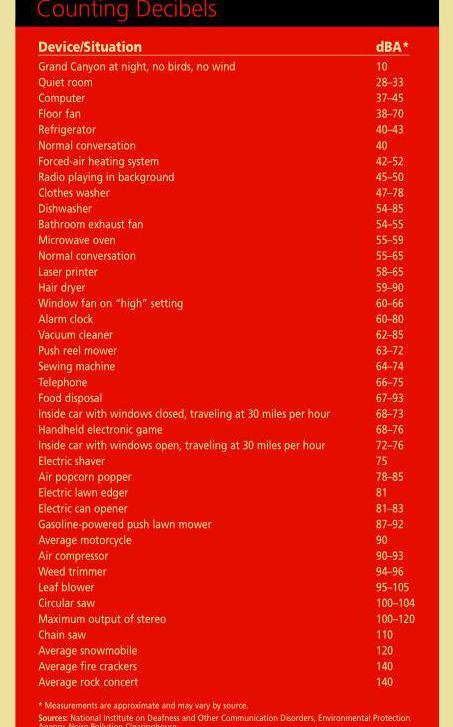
<table><thead><tr><td>Device/Situation</td><td>dBA*</td></tr></thead><tbody><tr><td>Grand Canyon at night, no birds, no wind</td><td>10</td></tr><tr><td>Quiet room</td><td>28–33</td></tr><tr><td>Computer</td><td>37–45</td></tr><tr><td>Floor fan</td><td>38–70</td></tr><tr><td>Refrigerator</td><td>40–43</td></tr><tr><td>Normal conversation</td><td>40</td></tr><tr><td>Forced-air heating system</td><td>42–52</td></tr><tr><td>Radio playing in background</td><td>45–50</td></tr><tr><td>Clothes washer</td><td>47–78</td></tr><tr><td>Dishwasher</td><td>54–85</td></tr><tr><td>Bathroom exhaust fan</td><td>54–55</td></tr><tr><td>Microwave oven</td><td>55–59</td></tr><tr><td>Normal conversation</td><td>55–65</td></tr><tr><td>Laser printer</td><td>58–65</td></tr><tr><td>Hair dryer</td><td>59–90</td></tr><tr><td>Window fan on “high” setting</td><td>60–66</td></tr><tr><td>Alarm clock</td><td>60–80</td></tr><tr><td>Vacuum cleaner</td><td>62–85</td></tr><tr><td>Push reel mower</td><td>63–72</td></tr><tr><td>Sewing machine</td><td>64–74</td></tr><tr><td>Telephone</td><td>66–75</td></tr><tr><td>Food disposal</td><td>67–93</td></tr><tr><td>Inside car with windows closed, traveling at 30 miles per hour</td><td>68–73</td></tr><tr><td>Handheld electronic game</td><td>68–76</td></tr><tr><td>Inside car with windows open, traveling at 30 miles per hour</td><td>72–76</td></tr><tr><td>Electric shaver</td><td>75</td></tr><tr><td>Air popcorn popper</td><td>78–85</td></tr><tr><td>Electric lawn edger</td><td>81</td></tr><tr><td>Electric can opener</td><td>81–83</td></tr><tr><td>Gasoline-powered push lawn mower</td><td>87–92</td></tr><tr><td>Average motorcycle</td><td>90</td></tr><tr><td>Air compressor</td><td>90–93</td></tr><tr><td>Weed trimmer</td><td>94–96</td></tr><tr><td>Leaf blower</td><td>95–105</td></tr><tr><td>Circular saw</td><td>100–104</td></tr><tr><td>Maximum output of stereo</td><td>100–120</td></tr><tr><td>Chain saw</td><td>110</td></tr><tr><td>Average snowmobile</td><td>120</td></tr><tr><td>Average fire crackers</td><td>140</td></tr><tr><td>Average rock concert</td><td>140</td></tr></tbody></table>